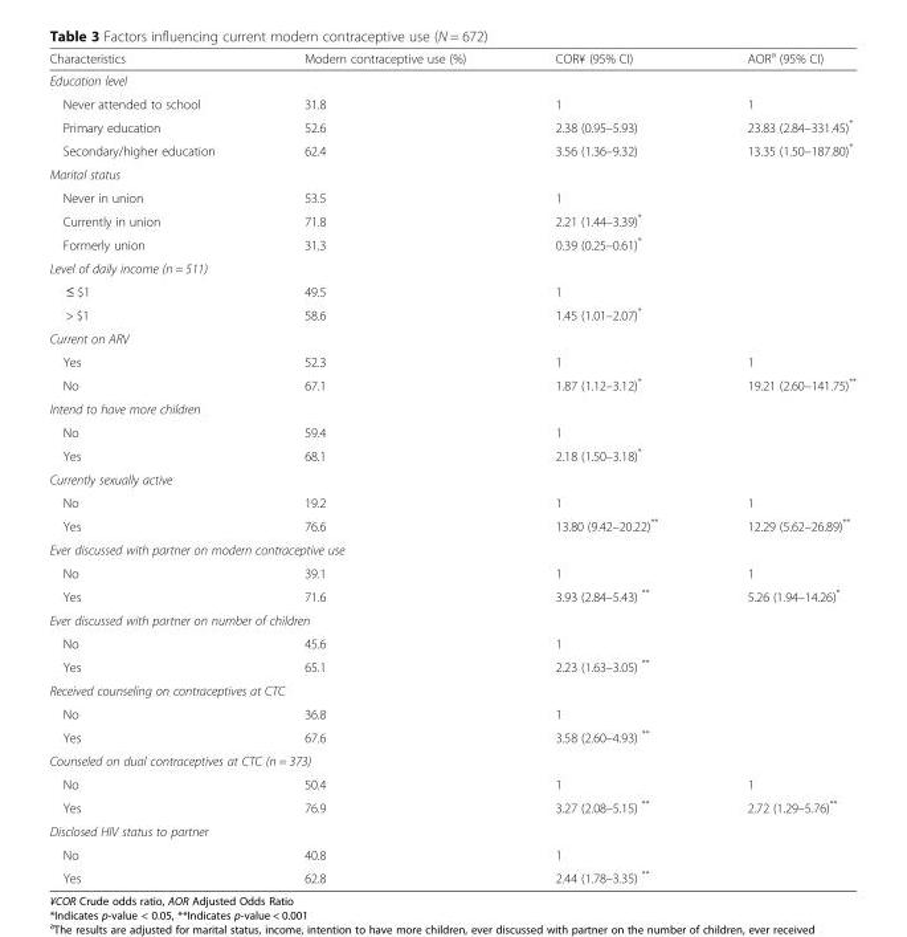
<table><thead><tr><td>Characteristics</td><td>Modern contraceptive use (%)</td><td>COR¥ (95% CI)</td><td>AOR<sup>a</sup> (95% CI)</td></tr></thead><tbody><tr><td colspan="4">Education level</td></tr><tr><td>Never attended to school</td><td>31.8</td><td>1</td><td>1</td></tr><tr><td>Primary education</td><td>52.6</td><td>2.38 (0.95–5.93)</td><td>23.83 (2.84–331.45)*</td></tr><tr><td>Secondary/higher education</td><td>62.4</td><td>3.56 (1.36–9.32)</td><td>13.35 (1.50–187.80)*</td></tr><tr><td colspan="4">Marital status</td></tr><tr><td>Never in union</td><td>53.5</td><td>1</td><td></td></tr><tr><td>Currently in union</td><td>71.8</td><td>2.21 (1.44–3.39)*</td><td></td></tr><tr><td>Formerly union</td><td>31.3</td><td>0.39 (0.25–0.61)*</td><td></td></tr><tr><td colspan="4">Level of daily income (n = 511)</td></tr><tr><td>≤ $1</td><td>49.5</td><td>1</td><td></td></tr><tr><td>&gt; $1</td><td>58.6</td><td>1.45 (1.01–2.07)*</td><td></td></tr><tr><td colspan="4">Current on ARV</td></tr><tr><td>Yes</td><td>52.3</td><td>1</td><td>1</td></tr><tr><td>No</td><td>67.1</td><td>1.87 (1.12–3.12)*</td><td>19.21 (2.60–141.75)**</td></tr><tr><td colspan="4">Intend to have more children</td></tr><tr><td>No</td><td>59.4</td><td>1</td><td></td></tr><tr><td>Yes</td><td>68.1</td><td>2.18 (1.50–3.18)*</td><td></td></tr><tr><td colspan="4">Currently sexually active</td></tr><tr><td>No</td><td>19.2</td><td>1</td><td>1</td></tr><tr><td>Yes</td><td>76.6</td><td>13.80 (9.42–20.22)**</td><td>12.29 (5.62–26.89)**</td></tr><tr><td colspan="4">Ever discussed with partner on modern contraceptive use</td></tr><tr><td>No</td><td>39.1</td><td>1</td><td>1</td></tr><tr><td>Yes</td><td>71.6</td><td>3.93 (2.84–5.43) **</td><td>5.26 (1.94–14.26)*</td></tr><tr><td colspan="4">Ever discussed with partner on number of children</td></tr><tr><td>No</td><td>45.6</td><td>1</td><td></td></tr><tr><td>Yes</td><td>65.1</td><td>2.23 (1.63–3.05) **</td><td></td></tr><tr><td colspan="4">Received counseling on contraceptives at CTC</td></tr><tr><td>No</td><td>36.8</td><td>1</td><td></td></tr><tr><td>Yes</td><td>67.6</td><td>3.58 (2.60–4.93) **</td><td></td></tr><tr><td colspan="4">Counseled on dual contraceptives at CTC (n = 373)</td></tr><tr><td>No</td><td>50.4</td><td>1</td><td>1</td></tr><tr><td>Yes</td><td>76.9</td><td>3.27 (2.08–5.15) **</td><td>2.72 (1.29–5.76)**</td></tr><tr><td colspan="4">Disclosed HIV status to partner</td></tr><tr><td>No</td><td>40.8</td><td>1</td><td></td></tr><tr><td>Yes</td><td>62.8</td><td>2.44 (1.78–3.35) **</td><td></td></tr></tbody></table>